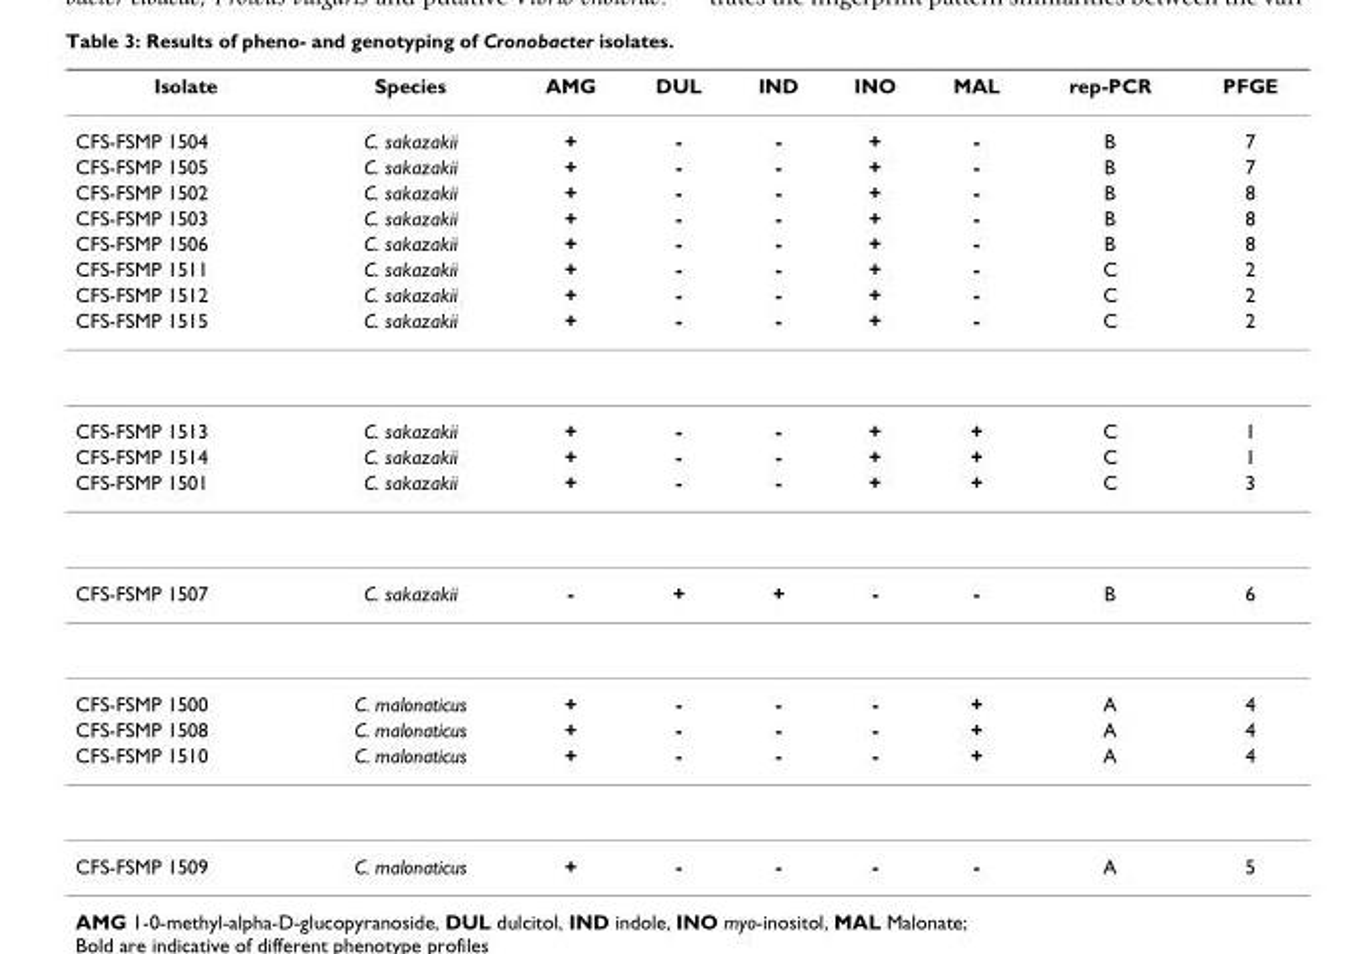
<table><thead><tr><td>Isolate</td><td>Species</td><td>AMG</td><td>DUL</td><td>IND</td><td>INO</td><td>MAL</td><td>rep-PCR</td><td>PFGE</td></tr></thead><tbody><tr><td>CFS-FSMP 1504</td><td>C. sakazakii</td><td>+</td><td>-</td><td>-</td><td>+</td><td>-</td><td>B</td><td>7</td></tr><tr><td>CFS-FSMP 1505</td><td>C. sakazakii</td><td>+</td><td>-</td><td>-</td><td>+</td><td>-</td><td>B</td><td>7</td></tr><tr><td>CFS-FSMP 1502</td><td>C. sakazakii</td><td>+</td><td>-</td><td>-</td><td>+</td><td>-</td><td>B</td><td>8</td></tr><tr><td>CFS-FSMP 1503</td><td>C. sakazakii</td><td>+</td><td>-</td><td>-</td><td>+</td><td>-</td><td>B</td><td>8</td></tr><tr><td>CFS-FSMP 1506</td><td>C. sakazakii</td><td>+</td><td>-</td><td>-</td><td>+</td><td>-</td><td>B</td><td>8</td></tr><tr><td>CFS-FSMP 1511</td><td>C. sakazakii</td><td>+</td><td>-</td><td>-</td><td>+</td><td>-</td><td>C</td><td>2</td></tr><tr><td>CFS-FSMP 1512</td><td>C. sakazakii</td><td>+</td><td>-</td><td>-</td><td>+</td><td>-</td><td>C</td><td>2</td></tr><tr><td>CFS-FSMP 1515</td><td>C. sakazakii</td><td>+</td><td>-</td><td>-</td><td>+</td><td>-</td><td>C</td><td>2</td></tr><tr><td>CFS-FSMP 1513</td><td>C. sakazakii</td><td>+</td><td>-</td><td>-</td><td>+</td><td>+</td><td>C</td><td>1</td></tr><tr><td>CFS-FSMP 1514</td><td>C. sakazakii</td><td>+</td><td>-</td><td>-</td><td>+</td><td>+</td><td>C</td><td>1</td></tr><tr><td>CFS-FSMP 1501</td><td>C. sakazakii</td><td>+</td><td>-</td><td>-</td><td>+</td><td>+</td><td>C</td><td>3</td></tr><tr><td>CFS-FSMP 1507</td><td>C. sakazakii</td><td>-</td><td>+</td><td>+</td><td>-</td><td>-</td><td>B</td><td>6</td></tr><tr><td>CFS-FSMP 1500</td><td>C. malonaticus</td><td>+</td><td>-</td><td>-</td><td>-</td><td>+</td><td>A</td><td>4</td></tr><tr><td>CFS-FSMP 1508</td><td>C. malonaticus</td><td>+</td><td>-</td><td>-</td><td>-</td><td>+</td><td>A</td><td>4</td></tr><tr><td>CFS-FSMP 1510</td><td>C. malonaticus</td><td>+</td><td>-</td><td>-</td><td>-</td><td>+</td><td>A</td><td>4</td></tr><tr><td>CFS-FSMP 1509</td><td>C. malonaticus</td><td>+</td><td>-</td><td>-</td><td>-</td><td>-</td><td>A</td><td>5</td></tr></tbody></table>